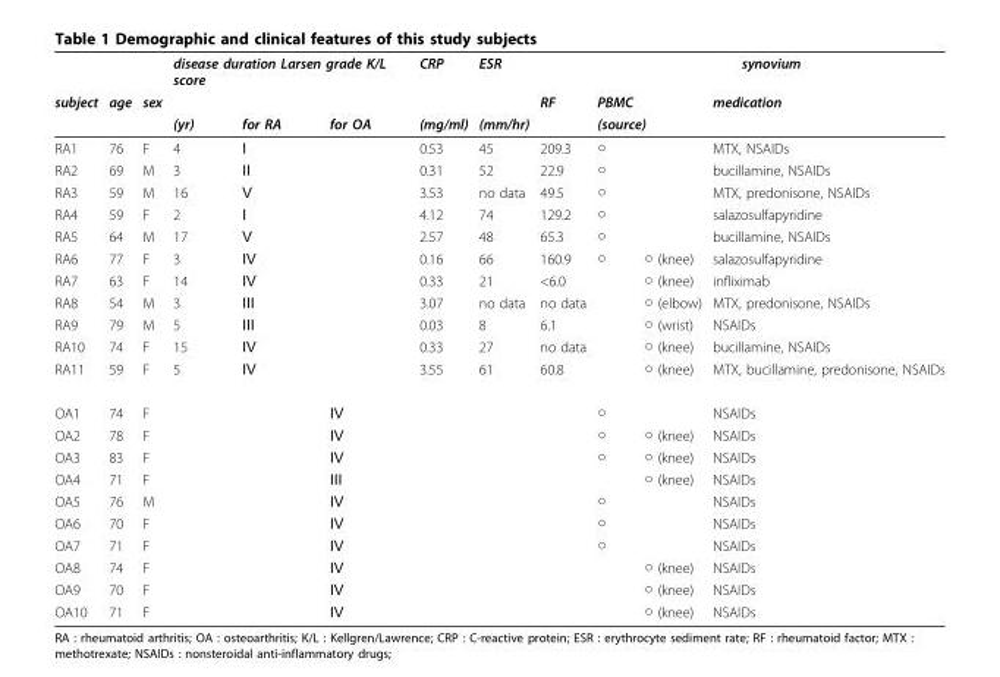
<table><thead><tr><td rowspan="3">subject</td><td rowspan="3">age</td><td rowspan="3">sex</td><td colspan="3">disease duration Larsen grade K/L score</td><td rowspan="3">CRP (mg/ml)</td><td rowspan="3">ESR (mm/hr)</td><td rowspan="3">RF</td><td colspan="3">synovium</td></tr><tr><td rowspan="2">(yr)</td><td rowspan="2">for RA</td><td rowspan="2">for OA</td><td>PBMC</td><td></td><td>medication</td></tr><tr><td colspan="3">(source)</td></tr></thead><tbody><tr><td>RA1</td><td>76</td><td>F</td><td>4</td><td>Ⅰ</td><td></td><td>0.53</td><td>45</td><td>209.3</td><td>○</td><td></td><td>MTX, NSAIDs</td></tr><tr><td>RA2</td><td>69</td><td>M</td><td>3</td><td>Ⅱ</td><td></td><td>0.31</td><td>52</td><td>22.9</td><td>○</td><td></td><td>bucillamine, NSAIDs</td></tr><tr><td>RA3</td><td>59</td><td>M</td><td>16</td><td>Ⅴ</td><td></td><td>3.53</td><td>no data</td><td>49.5</td><td>○</td><td></td><td>MTX, predonisone, NSAIDs</td></tr><tr><td>RA4</td><td>59</td><td>F</td><td>2</td><td>Ⅰ</td><td></td><td>4.12</td><td>74</td><td>129.2</td><td>○</td><td></td><td>salazosulfapyridine</td></tr><tr><td>RA5</td><td>64</td><td>M</td><td>17</td><td>Ⅴ</td><td></td><td>2.57</td><td>48</td><td>65.3</td><td>○</td><td></td><td>bucillamine, NSAIDs</td></tr><tr><td>RA6</td><td>77</td><td>F</td><td>3</td><td>Ⅳ</td><td></td><td>0.16</td><td>66</td><td>160.9</td><td>○</td><td>○ (knee)</td><td>salazosulfapyridine</td></tr><tr><td>RA7</td><td>63</td><td>F</td><td>14</td><td>Ⅳ</td><td></td><td>0.33</td><td>21</td><td>&lt;6.0</td><td></td><td>○ (knee)</td><td>infliximab</td></tr><tr><td>RA8</td><td>54</td><td>M</td><td>3</td><td>Ⅲ</td><td></td><td>3.07</td><td>no data</td><td>no data</td><td></td><td>○ (elbow)</td><td>MTX, predonisone, NSAIDs</td></tr><tr><td>RA9</td><td>79</td><td>M</td><td>5</td><td>Ⅲ</td><td></td><td>0.03</td><td>8</td><td>6.1</td><td></td><td>○ (wrist)</td><td>NSAIDs</td></tr><tr><td>RA10</td><td>74</td><td>F</td><td>15</td><td>Ⅳ</td><td></td><td>0.33</td><td>27</td><td>no data</td><td></td><td>○ (knee)</td><td>bucillamine, NSAIDs</td></tr><tr><td>RA11</td><td>59</td><td>F</td><td>5</td><td>Ⅳ</td><td></td><td>3.55</td><td>61</td><td>60.8</td><td></td><td>○ (knee)</td><td>MTX, bucillamine, predonisone, NSAIDs</td></tr><tr><td>OA1</td><td>74</td><td>F</td><td></td><td></td><td>Ⅳ</td><td></td><td></td><td></td><td>○</td><td></td><td>NSAIDs</td></tr><tr><td>OA2</td><td>78</td><td>F</td><td></td><td></td><td>Ⅳ</td><td></td><td></td><td></td><td>○</td><td>○ (knee)</td><td>NSAIDs</td></tr><tr><td>OA3</td><td>83</td><td>F</td><td></td><td></td><td>Ⅳ</td><td></td><td></td><td></td><td>○</td><td>○ (knee)</td><td>NSAIDs</td></tr><tr><td>OA4</td><td>71</td><td>F</td><td></td><td></td><td>Ⅲ</td><td></td><td></td><td></td><td></td><td>○ (knee)</td><td>NSAIDs</td></tr><tr><td>OA5</td><td>76</td><td>M</td><td></td><td></td><td>Ⅳ</td><td></td><td></td><td></td><td>○</td><td></td><td>NSAIDs</td></tr><tr><td>OA6</td><td>70</td><td>F</td><td></td><td></td><td>Ⅳ</td><td></td><td></td><td></td><td>○</td><td></td><td>NSAIDs</td></tr><tr><td>OA7</td><td>71</td><td>F</td><td></td><td></td><td>Ⅳ</td><td></td><td></td><td></td><td>○</td><td></td><td>NSAIDs</td></tr><tr><td>OA8</td><td>74</td><td>F</td><td></td><td></td><td>Ⅳ</td><td></td><td></td><td></td><td></td><td>○ (knee)</td><td>NSAIDs</td></tr><tr><td>OA9</td><td>70</td><td>F</td><td></td><td></td><td>Ⅳ</td><td></td><td></td><td></td><td></td><td>○ (knee)</td><td>NSAIDs</td></tr><tr><td>OA10</td><td>71</td><td>F</td><td></td><td></td><td>Ⅳ</td><td></td><td></td><td></td><td></td><td>○ (knee)</td><td>NSAIDs</td></tr></tbody></table>